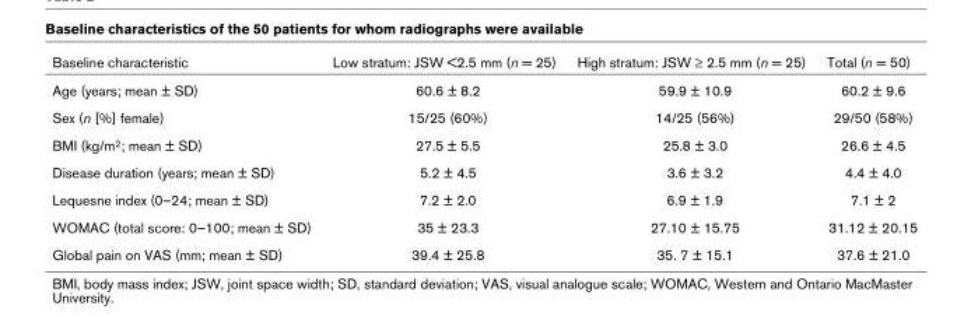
<table><thead><tr><td>Baseline characteristic</td><td>Low stratum: JSW &lt;2.5 mm (n = 25)</td><td>High stratum: JSW ≥ 2.5 mm (n = 25)</td><td>Total (n = 50)</td></tr></thead><tbody><tr><td>Age (years; mean ± SD)</td><td>60.6 ± 8.2</td><td>59.9 ± 10.9</td><td>60.2 ± 9.6</td></tr><tr><td>Sex (n [%] female)</td><td>15/25 (60%)</td><td>14/25 (56%)</td><td>29/50 (58%)</td></tr><tr><td>BMI (kg/m2; mean ± SD)</td><td>27.5 ± 5.5</td><td>25.8 ± 3.0</td><td>26.6 ± 4.5</td></tr><tr><td>Disease duration (years; mean ± SD)</td><td>5.2 ± 4.5</td><td>3.6 ± 3.2</td><td>4.4 ± 4.0</td></tr><tr><td>Lequesne index (0–24; mean ± SD)</td><td>7.2 ± 2.0</td><td>6.9 ± 1.9</td><td>7.1 ± 2</td></tr><tr><td>WOMAC (total score: 0–100; mean ± SD)</td><td>35 ± 23.3</td><td>27.10 ± 15.75</td><td>31.12 ± 20.15</td></tr><tr><td>Global pain on VAS (mm; mean ± SD)</td><td>39.4 ± 25.8</td><td>35. 7 ± 15.1</td><td>37.6 ± 21.0</td></tr></tbody></table>